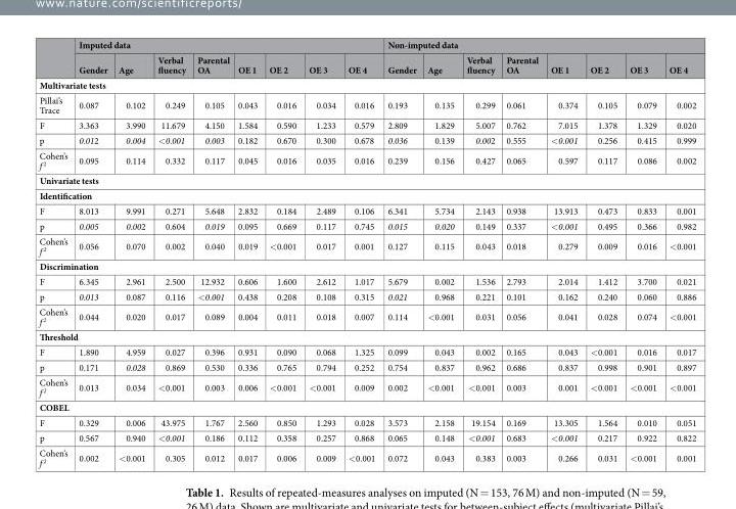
<table><thead><tr><td rowspan="2"></td><td colspan="8">Imputed data</td><td colspan="8">Non-imputed data</td></tr><tr><td>Gender</td><td>Age</td><td>Verbal fluency</td><td>Parental OA</td><td>OE 1</td><td>OE 2</td><td>OE 3</td><td>OE 4</td><td>Gender</td><td>Age</td><td>Verbal fluency</td><td>Parental OA</td><td>OE 1</td><td>OE 2</td><td>OE 3</td><td>OE 4</td></tr></thead><tbody><tr><td colspan="17">Multivariate tests</td></tr><tr><td>Pillai’s Trace</td><td>0.087</td><td>0.102</td><td>0.249</td><td>0.105</td><td>0.043</td><td>0.016</td><td>0.034</td><td>0.016</td><td>0.193</td><td>0.135</td><td>0.299</td><td>0.061</td><td>0.374</td><td>0.105</td><td>0.079</td><td>0.002</td></tr><tr><td>F</td><td>3.363</td><td>3.990</td><td>11.679</td><td>4.150</td><td>1.584</td><td>0.590</td><td>1.233</td><td>0.579</td><td>2.809</td><td>1.829</td><td>5.007</td><td>0.762</td><td>7.015</td><td>1.378</td><td>1.329</td><td>0.020</td></tr><tr><td>p</td><td>0.012</td><td>0.004</td><td>&lt;0.001</td><td>0.003</td><td>0.182</td><td>0.670</td><td>0.300</td><td>0.678</td><td>0.036</td><td>0.139</td><td>0.002</td><td>0.555</td><td>&lt;0.001</td><td>0.256</td><td>0.415</td><td>0.999</td></tr><tr><td>Cohen’s f <sup>2</sup></td><td>0.095</td><td>0.114</td><td>0.332</td><td>0.117</td><td>0.045</td><td>0.016</td><td>0.035</td><td>0.016</td><td>0.239</td><td>0.156</td><td>0.427</td><td>0.065</td><td>0.597</td><td>0.117</td><td>0.086</td><td>0.002</td></tr><tr><td colspan="17">Univariate tests</td></tr><tr><td colspan="17">Identification</td></tr><tr><td>F</td><td>8.013</td><td>9.991</td><td>0.271</td><td>5.648</td><td>2.832</td><td>0.184</td><td>2.489</td><td>0.106</td><td>6.341</td><td>5.734</td><td>2.143</td><td>0.938</td><td>13.913</td><td>0.473</td><td>0.833</td><td>0.001</td></tr><tr><td>p</td><td>0.005</td><td>0.002</td><td>0.604</td><td>0.019</td><td>0.095</td><td>0.669</td><td>0.117</td><td>0.745</td><td>0.015</td><td>0.020</td><td>0.149</td><td>0.337</td><td>&lt;0.001</td><td>0.495</td><td>0.366</td><td>0.982</td></tr><tr><td>Cohen’s f <sup>2</sup></td><td>0.056</td><td>0.070</td><td>0.002</td><td>0.040</td><td>0.019</td><td>&lt;0.001</td><td>0.017</td><td>0.001</td><td>0.127</td><td>0.115</td><td>0.043</td><td>0.018</td><td>0.279</td><td>0.009</td><td>0.016</td><td>&lt;0.001</td></tr><tr><td colspan="17">Discrimination</td></tr><tr><td>F</td><td>6.345</td><td>2.961</td><td>2.500</td><td>12.932</td><td>0.606</td><td>1.600</td><td>2.612</td><td>1.017</td><td>5.679</td><td>0.002</td><td>1.536</td><td>2.793</td><td>2.014</td><td>1.412</td><td>3.700</td><td>0.021</td></tr><tr><td>p</td><td>0.013</td><td>0.087</td><td>0.116</td><td>&lt;0.001</td><td>0.438</td><td>0.208</td><td>0.108</td><td>0.315</td><td>0.021</td><td>0.968</td><td>0.221</td><td>0.101</td><td>0.162</td><td>0.240</td><td>0.060</td><td>0.886</td></tr><tr><td>Cohen’s f <sup>2</sup></td><td>0.044</td><td>0.020</td><td>0.017</td><td>0.089</td><td>0.004</td><td>0.011</td><td>0.018</td><td>0.007</td><td>0.114</td><td>&lt;0.001</td><td>0.031</td><td>0.056</td><td>0.041</td><td>0.028</td><td>0.074</td><td>&lt;0.001</td></tr><tr><td colspan="17">Threshold</td></tr><tr><td>F</td><td>1.890</td><td>4.959</td><td>0.027</td><td>0.396</td><td>0.931</td><td>0.090</td><td>0.068</td><td>1.325</td><td>0.099</td><td>0.043</td><td>0.002</td><td>0.165</td><td>0.043</td><td>&lt;0.001</td><td>0.016</td><td>0.017</td></tr><tr><td>p</td><td>0.171</td><td>0.028</td><td>0.869</td><td>0.530</td><td>0.336</td><td>0.765</td><td>0.794</td><td>0.252</td><td>0.754</td><td>0.837</td><td>0.962</td><td>0.686</td><td>0.837</td><td>0.998</td><td>0.901</td><td>0.897</td></tr><tr><td>Cohen’s f <sup>2</sup></td><td>0.013</td><td>0.034</td><td>&lt;0.001</td><td>0.003</td><td>0.006</td><td>&lt;0.001</td><td>&lt;0.001</td><td>0.009</td><td>0.002</td><td>&lt;0.001</td><td>&lt;0.001</td><td>0.003</td><td>0.001</td><td>&lt;0.001</td><td>&lt;0.001</td><td>&lt;0.001</td></tr><tr><td colspan="17">COBEL</td></tr><tr><td>F</td><td>0.329</td><td>0.006</td><td>43.975</td><td>1.767</td><td>2.560</td><td>0.850</td><td>1.293</td><td>0.028</td><td>3.573</td><td>2.158</td><td>19.154</td><td>0.169</td><td>13.305</td><td>1.564</td><td>0.010</td><td>0.051</td></tr><tr><td>p</td><td>0.567</td><td>0.940</td><td>&lt;0.001</td><td>0.186</td><td>0.112</td><td>0.358</td><td>0.257</td><td>0.868</td><td>0.065</td><td>0.148</td><td>&lt;0.001</td><td>0.683</td><td>&lt;0.001</td><td>0.217</td><td>0.922</td><td>0.822</td></tr><tr><td>Cohen’s f <sup>2</sup></td><td>0.002</td><td>&lt;0.001</td><td>0.305</td><td>0.012</td><td>0.017</td><td>0.006</td><td>0.009</td><td>&lt;0.001</td><td>0.072</td><td>0.043</td><td>0.383</td><td>0.003</td><td>0.266</td><td>0.031</td><td>&lt;0.001</td><td>0.001</td></tr></tbody></table>